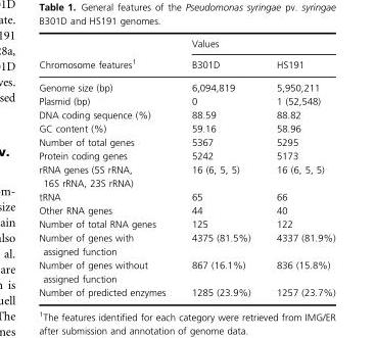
<table><thead><tr><td rowspan="2">Chromosome features<sup>1</sup></td><td colspan="2">Values</td></tr><tr><td>B301D</td><td>HS191</td></tr></thead><tbody><tr><td>Genome size (bp)</td><td>6,094,819</td><td>5,950,211</td></tr><tr><td>Plasmid (bp)</td><td>0</td><td>1 (52,548)</td></tr><tr><td>DNA coding sequence (%)</td><td>88.59</td><td>88.82</td></tr><tr><td>GC content (%)</td><td>59.16</td><td>58.96</td></tr><tr><td>Number of total genes</td><td>5367</td><td>5295</td></tr><tr><td>Protein coding genes</td><td>5242</td><td>5173</td></tr><tr><td>rRNA genes (5S rRNA, 16S rRNA, 23S rRNA)</td><td>16 (6, 5, 5)</td><td>16 (6, 5, 5)</td></tr><tr><td>tRNA</td><td>65</td><td>66</td></tr><tr><td>Other RNA genes</td><td>44</td><td>40</td></tr><tr><td>Number of total RNA genes</td><td>125</td><td>122</td></tr><tr><td>Number of genes with assigned function</td><td>4375 (81.5%)</td><td>4337 (81.9%)</td></tr><tr><td>Number of genes without assigned function</td><td>867 (16.1%)</td><td>836 (15.8%)</td></tr><tr><td>Number of predicted enzymes</td><td>1285 (23.9%)</td><td>1257 (23.7%)</td></tr></tbody></table>